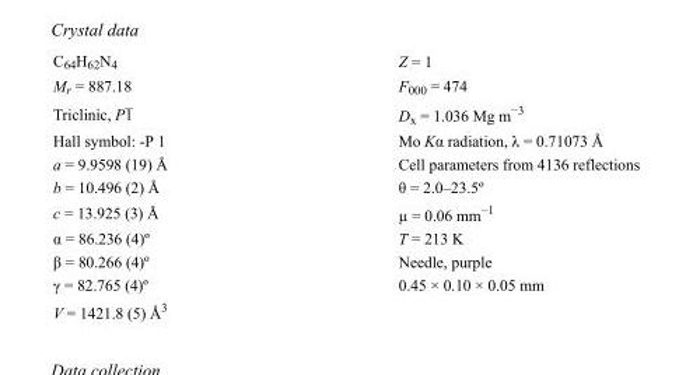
<table><tbody><tr><td>C<sub>64</sub>H<sub>62</sub>N<sub>4</sub></td><td>Z = 1</td></tr><tr><td>M<sub>r</sub> = 887.18</td><td>F000 = 474</td></tr><tr><td>Triclinic, P1</td><td>D<sub>x</sub> = 1.036 Mg m<sup>−3</sup></td></tr><tr><td>Hall symbol: -P 1</td><td>Mo Kα radiation, λ = 0.71073 Å</td></tr><tr><td>a = 9.9598 (19) Å</td><td>Cell parameters from 4136 reflections</td></tr><tr><td>b = 10.496 (2) Å</td><td>θ = 2.0–23.5º</td></tr><tr><td>c = 13.925 (3) Å</td><td>µ = 0.06 mm<sup>−1</sup></td></tr><tr><td>α = 86.236 (4)º</td><td>T = 213 K</td></tr><tr><td>β = 80.266 (4)º</td><td>Needle, purple</td></tr><tr><td>γ = 82.765 (4)º</td><td>0.45 × 0.10 × 0.05 mm</td></tr><tr><td>V = 1421.8 (5) Å<sup>3</sup></td><td></td></tr></tbody></table>